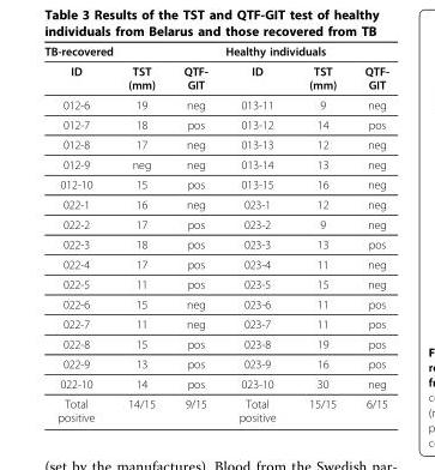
<table><thead><tr><td colspan="3">TB-recovered</td><td colspan="3">Healthy individuals</td></tr><tr><td>ID</td><td>TST (mm)</td><td>QTF- GIT</td><td>ID</td><td>TST (mm)</td><td>QTF- GIT</td></tr></thead><tbody><tr><td>012-6</td><td>19</td><td>neg</td><td>013-11</td><td>9</td><td>neg</td></tr><tr><td>012-7</td><td>18</td><td>pos</td><td>013-12</td><td>14</td><td>pos</td></tr><tr><td>012-8</td><td>17</td><td>neg</td><td>013-13</td><td>12</td><td>neg</td></tr><tr><td>012-9</td><td>neg</td><td>neg</td><td>013-14</td><td>13</td><td>neg</td></tr><tr><td>012-10</td><td>15</td><td>pos</td><td>013-15</td><td>16</td><td>neg</td></tr><tr><td>022-1</td><td>16</td><td>neg</td><td>023-1</td><td>12</td><td>neg</td></tr><tr><td>022-2</td><td>17</td><td>pos</td><td>023-2</td><td>9</td><td>neg</td></tr><tr><td>022-3</td><td>18</td><td>pos</td><td>023-3</td><td>13</td><td>pos</td></tr><tr><td>022-4</td><td>17</td><td>pos</td><td>023-4</td><td>11</td><td>neg</td></tr><tr><td>022-5</td><td>11</td><td>pos</td><td>023-5</td><td>15</td><td>neg</td></tr><tr><td>022-6</td><td>15</td><td>neg</td><td>023-6</td><td>11</td><td>pos</td></tr><tr><td>022-7</td><td>11</td><td>neg</td><td>023-7</td><td>11</td><td>pos</td></tr><tr><td>022-8</td><td>15</td><td>pos</td><td>023-8</td><td>19</td><td>pos</td></tr><tr><td>022-9</td><td>13</td><td>pos</td><td>023-9</td><td>16</td><td>pos</td></tr><tr><td>022-10</td><td>14</td><td>pos</td><td>023-10</td><td>30</td><td>neg</td></tr><tr><td>Total positive</td><td>14/15</td><td>9/15</td><td>Total positive</td><td>15/15</td><td>6/15</td></tr></tbody></table>